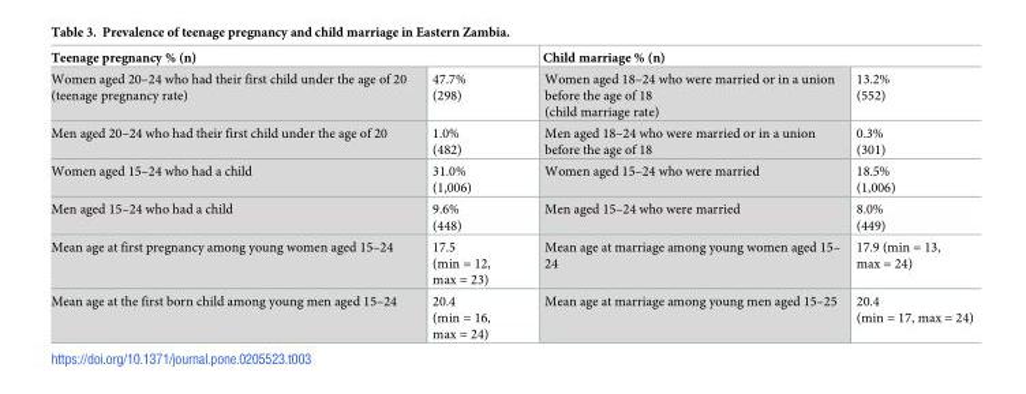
<table><thead><tr><td colspan="2">Teenage pregnancy % (n)</td><td colspan="2">Child marriage % (n)</td></tr><tr><td>Women aged 20–24 who had their first child under the age of 20 (teenage pregnancy rate)</td><td>47.7% (298)</td><td>Women aged 18–24 who were married or in a union before the age of 18 (child marriage rate)</td><td>13.2% (552)</td></tr></thead><tbody><tr><td>Men aged 20–24 who had their first child under the age of 20</td><td>1.0% (482)</td><td>Men aged 18–24 who were married or in a union before the age of 18</td><td>0.3% (301)</td></tr><tr><td>Women aged 15–24 who had a child</td><td>31.0% (1,006)</td><td>Women aged 15–24 who were married</td><td>18.5% (1,006)</td></tr><tr><td>Men aged 15–24 who had a child</td><td>9.6% (448)</td><td>Men aged 15–24 who were married</td><td>8.0% (449)</td></tr><tr><td>Mean age at first pregnancy among young women aged 15–24</td><td>17.5 (min = 12, max = 23)</td><td>Mean age at marriage among young women aged 15– 24</td><td>17.9 (min = 13, max = 24)</td></tr><tr><td>Mean age at the first born child among young men aged 15–24</td><td>20.4 (min = 16, max = 24)</td><td>Mean age at marriage among young men aged 15–25</td><td>20.4 (min = 17, max = 24)</td></tr></tbody></table>